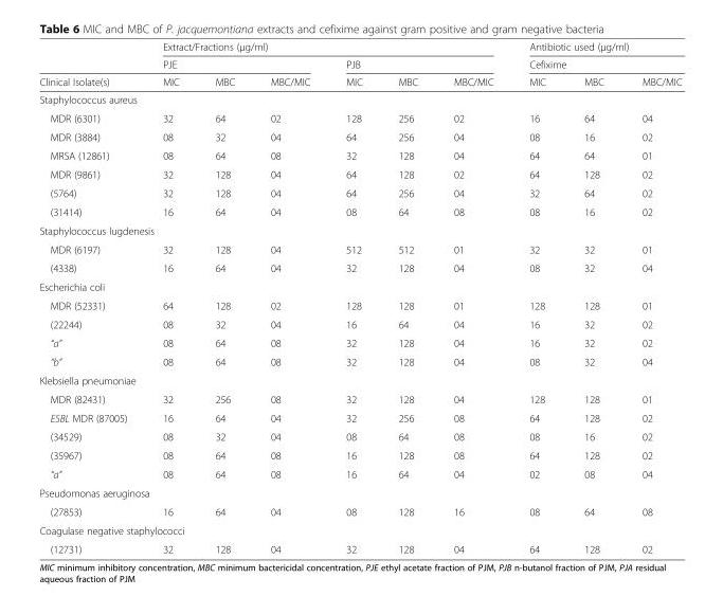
<table><thead><tr><td rowspan="3">Clinical Isolate(s)</td><td colspan="6">Extract/Fractions (μg/ml)</td><td rowspan="2" colspan="3">Antibiotic used (μg/ml) Cefixime</td></tr><tr><td colspan="3">PJE</td><td colspan="3">PJB</td></tr><tr><td>MIC</td><td>MBC</td><td>MBC/MIC</td><td>MIC</td><td>MBC</td><td>MBC/MIC</td><td>MIC</td><td>MBC</td><td>MBC/MIC</td></tr></thead><tbody><tr><td colspan="10">Staphylococcus aureus</td></tr><tr><td>MDR (6301)</td><td>32</td><td>64</td><td>02</td><td>128</td><td>256</td><td>02</td><td>16</td><td>64</td><td>04</td></tr><tr><td>MDR (3884)</td><td>08</td><td>32</td><td>04</td><td>64</td><td>256</td><td>04</td><td>08</td><td>16</td><td>02</td></tr><tr><td>MRSA (12861)</td><td>08</td><td>64</td><td>08</td><td>32</td><td>128</td><td>04</td><td>64</td><td>64</td><td>01</td></tr><tr><td>MDR (9861)</td><td>32</td><td>128</td><td>04</td><td>64</td><td>128</td><td>02</td><td>64</td><td>128</td><td>02</td></tr><tr><td>(5764)</td><td>32</td><td>128</td><td>04</td><td>64</td><td>256</td><td>04</td><td>32</td><td>64</td><td>02</td></tr><tr><td>(31414)</td><td>16</td><td>64</td><td>04</td><td>08</td><td>64</td><td>08</td><td>08</td><td>16</td><td>02</td></tr><tr><td colspan="10">Staphylococcus lugdenesis</td></tr><tr><td>MDR (6197)</td><td>32</td><td>128</td><td>04</td><td>512</td><td>512</td><td>01</td><td>32</td><td>32</td><td>01</td></tr><tr><td>(4338)</td><td>16</td><td>64</td><td>04</td><td>32</td><td>128</td><td>04</td><td>08</td><td>32</td><td>04</td></tr><tr><td colspan="10">Escherichia coli</td></tr><tr><td>MDR (52331)</td><td>64</td><td>128</td><td>02</td><td>128</td><td>128</td><td>01</td><td>128</td><td>128</td><td>01</td></tr><tr><td>(22244)</td><td>08</td><td>32</td><td>04</td><td>16</td><td>64</td><td>04</td><td>16</td><td>32</td><td>02</td></tr><tr><td>“a”</td><td>08</td><td>64</td><td>08</td><td>32</td><td>128</td><td>04</td><td>16</td><td>32</td><td>02</td></tr><tr><td>“b”</td><td>08</td><td>64</td><td>08</td><td>32</td><td>128</td><td>04</td><td>08</td><td>32</td><td>04</td></tr><tr><td colspan="10">Klebsiella pneumoniae</td></tr><tr><td>MDR (82431)</td><td>32</td><td>256</td><td>08</td><td>32</td><td>128</td><td>04</td><td>128</td><td>128</td><td>01</td></tr><tr><td>ESBL MDR (87005)</td><td>16</td><td>64</td><td>04</td><td>32</td><td>256</td><td>08</td><td>64</td><td>128</td><td>02</td></tr><tr><td>(34529)</td><td>08</td><td>32</td><td>04</td><td>08</td><td>64</td><td>08</td><td>08</td><td>16</td><td>02</td></tr><tr><td>(35967)</td><td>08</td><td>64</td><td>08</td><td>16</td><td>128</td><td>08</td><td>64</td><td>128</td><td>02</td></tr><tr><td>“a”</td><td>08</td><td>64</td><td>08</td><td>16</td><td>64</td><td>04</td><td>02</td><td>08</td><td>04</td></tr><tr><td colspan="10">Pseudomonas aeruginosa</td></tr><tr><td>(27853)</td><td>16</td><td>64</td><td>04</td><td>08</td><td>128</td><td>16</td><td>08</td><td>64</td><td>08</td></tr><tr><td colspan="10">Coagulase negative staphylococci</td></tr><tr><td>(12731)</td><td>32</td><td>128</td><td>04</td><td>32</td><td>128</td><td>04</td><td>64</td><td>128</td><td>02</td></tr></tbody></table>